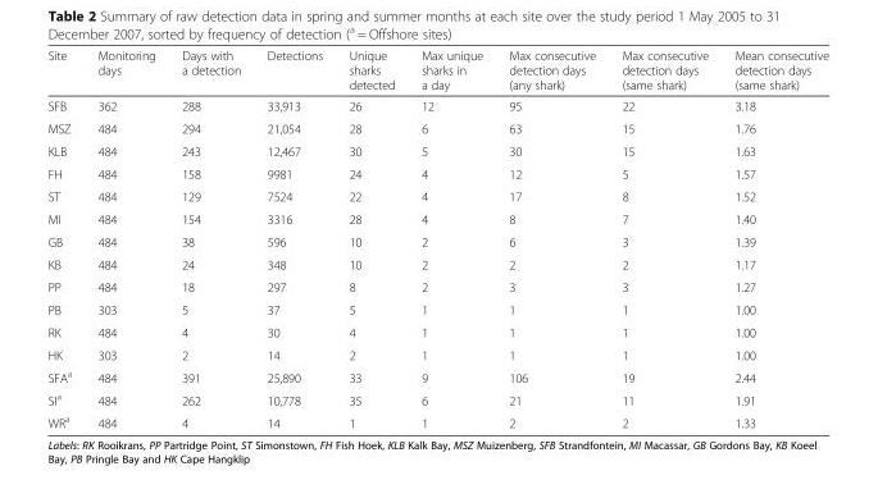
<table><thead><tr><td>Site</td><td>Monitoring days</td><td>Days with a detection</td><td>Detections</td><td>Unique sharks detected</td><td>Max unique sharks in a day</td><td>Max consecutive detection days (any shark)</td><td>Max consecutive detection days (same shark)</td><td>Mean consecutive detection days (same shark)</td></tr></thead><tbody><tr><td>SFB</td><td>362</td><td>288</td><td>33,913</td><td>26</td><td>12</td><td>95</td><td>22</td><td>3.18</td></tr><tr><td>MSZ</td><td>484</td><td>294</td><td>21,054</td><td>28</td><td>6</td><td>63</td><td>15</td><td>1.76</td></tr><tr><td>KLB</td><td>484</td><td>243</td><td>12,467</td><td>30</td><td>5</td><td>30</td><td>15</td><td>1.63</td></tr><tr><td>FH</td><td>484</td><td>158</td><td>9981</td><td>24</td><td>4</td><td>12</td><td>5</td><td>1.57</td></tr><tr><td>ST</td><td>484</td><td>129</td><td>7524</td><td>22</td><td>4</td><td>17</td><td>8</td><td>1.52</td></tr><tr><td>MI</td><td>484</td><td>154</td><td>3316</td><td>28</td><td>4</td><td>8</td><td>7</td><td>1.40</td></tr><tr><td>GB</td><td>484</td><td>38</td><td>596</td><td>10</td><td>2</td><td>6</td><td>3</td><td>1.39</td></tr><tr><td>KB</td><td>484</td><td>24</td><td>348</td><td>10</td><td>2</td><td>2</td><td>2</td><td>1.17</td></tr><tr><td>PP</td><td>484</td><td>18</td><td>297</td><td>8</td><td>2</td><td>3</td><td>3</td><td>1.27</td></tr><tr><td>PB</td><td>303</td><td>5</td><td>37</td><td>5</td><td>1</td><td>1</td><td>1</td><td>1.00</td></tr><tr><td>RK</td><td>484</td><td>4</td><td>30</td><td>4</td><td>1</td><td>1</td><td>1</td><td>1.00</td></tr><tr><td>HK</td><td>303</td><td>2</td><td>14</td><td>2</td><td>1</td><td>1</td><td>1</td><td>1.00</td></tr><tr><td>SFA<sup>a</sup></td><td>484</td><td>391</td><td>25,890</td><td>33</td><td>9</td><td>106</td><td>19</td><td>2.44</td></tr><tr><td>SI<sup>a</sup></td><td>484</td><td>262</td><td>10,778</td><td>35</td><td>6</td><td>21</td><td>11</td><td>1.91</td></tr><tr><td>WR<sup>a</sup></td><td>484</td><td>4</td><td>14</td><td>1</td><td>1</td><td>2</td><td>2</td><td>1.33</td></tr></tbody></table>